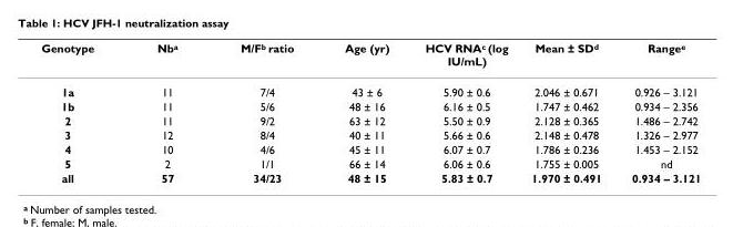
<table><thead><tr><td>Genotype</td><td>Nb<sup>a</sup></td><td>M/F<sup>b</sup> ratio</td><td>Age (yr)</td><td>HCV RNA<sup>c</sup> (log IU/mL)</td><td>Mean ± SD<sup>d</sup></td><td>Range<sup>e</sup></td></tr></thead><tbody><tr><td>1a</td><td>11</td><td>7/4</td><td>43 ± 6</td><td>5.90 ± 0.6</td><td>2.046 ± 0.671</td><td>0.926 – 3.121</td></tr><tr><td>1b</td><td>11</td><td>5/6</td><td>48 ± 16</td><td>6.16 ± 0.5</td><td>1.747 ± 0.462</td><td>0.934 – 2.356</td></tr><tr><td>2</td><td>11</td><td>9/2</td><td>63 ± 12</td><td>5.50 ± 0.9</td><td>2.128 ± 0.365</td><td>1.486 – 2.742</td></tr><tr><td>3</td><td>12</td><td>8/4</td><td>40 ± 11</td><td>5.66 ± 0.6</td><td>2.148 ± 0.478</td><td>1.326 – 2.977</td></tr><tr><td>4</td><td>10</td><td>4/6</td><td>45 ± 11</td><td>6.07 ± 0.7</td><td>1.786 ± 0.236</td><td>1.453 – 2.152</td></tr><tr><td>5</td><td>2</td><td>1/1</td><td>66 ± 14</td><td>6.06 ± 0.6</td><td>1.755 ± 0.005</td><td>nd</td></tr><tr><td>all</td><td>57</td><td>34/23</td><td>48 ± 15</td><td>5.83 ± 0.7</td><td>1.970 ± 0.491</td><td>0.934 – 3.121</td></tr></tbody></table>